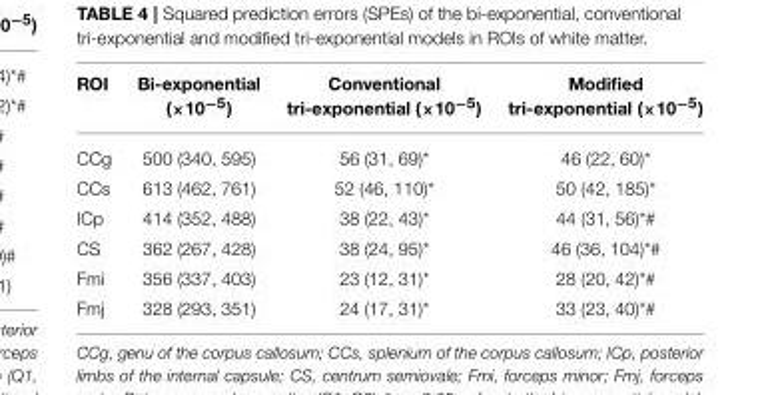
<table><thead><tr><td>ROI</td><td>Bi-exponential (×10<sup>−5</sup>)</td><td>Conventional tri-exponential (×10<sup>−5</sup>)</td><td>Modified tri-exponential (×10<sup>−5</sup>)</td></tr></thead><tbody><tr><td>CCg</td><td>500 (340, 595)</td><td>56 (31, 69)*</td><td>46 (22, 60)*</td></tr><tr><td>CCs</td><td>613 (462, 761)</td><td>52 (46, 110)*</td><td>50 (42, 185)*</td></tr><tr><td>ICp</td><td>414 (352, 488)</td><td>38 (22, 43)*</td><td>44 (31, 56)<sup>*#</sup></td></tr><tr><td>CS</td><td>362 (267, 428)</td><td>38 (24, 95)*</td><td>46 (36, 104)<sup>*#</sup></td></tr><tr><td>Fmi</td><td>356 (337, 403)</td><td>23 (12, 31)*</td><td>28 (20, 42)<sup>*#</sup></td></tr><tr><td>Fmj</td><td>328 (293, 351)</td><td>24 (17, 31)*</td><td>33 (23, 40)<sup>*#</sup></td></tr></tbody></table>